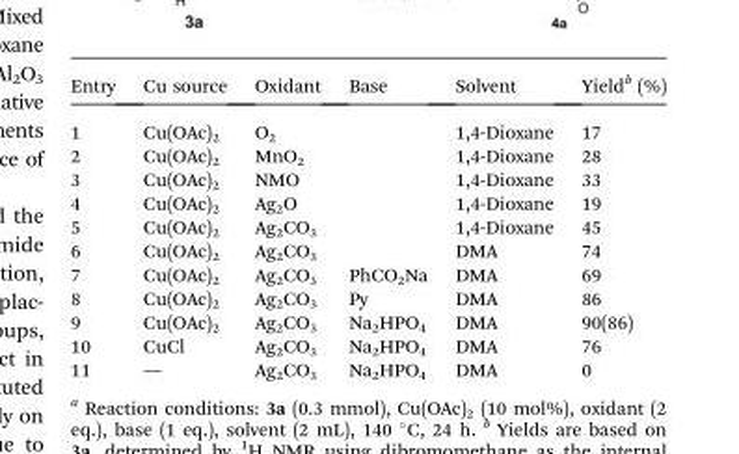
<table><thead><tr><td>Entry</td><td>Cu source</td><td>Oxidant</td><td>Base</td><td>Solvent</td><td>Yield<sup>b</sup> (%)</td></tr></thead><tbody><tr><td>1</td><td>Cu(OAc)<sub>2</sub></td><td>O<sub>2</sub></td><td></td><td>1,4-Dioxane</td><td>17</td></tr><tr><td>2</td><td>Cu(OAc)<sub>2</sub></td><td>MnO<sub>2</sub></td><td></td><td>1,4-Dioxane</td><td>28</td></tr><tr><td>3</td><td>Cu(OAc)<sub>2</sub></td><td>NMO</td><td></td><td>1,4-Dioxane</td><td>33</td></tr><tr><td>4</td><td>Cu(OAc)<sub>2</sub></td><td>Ag<sub>2</sub>O</td><td></td><td>1,4-Dioxane</td><td>19</td></tr><tr><td>5</td><td>Cu(OAc)<sub>2</sub></td><td>Ag<sub>2</sub>CO<sub>3</sub></td><td></td><td>1,4-Dioxane</td><td>45</td></tr><tr><td>6</td><td>Cu(OAc)<sub>2</sub></td><td>Ag<sub>2</sub>CO<sub>3</sub></td><td></td><td>DMA</td><td>74</td></tr><tr><td>7</td><td>Cu(OAc)<sub>2</sub></td><td>Ag<sub>2</sub>CO<sub>3</sub></td><td>PhCO<sub>2</sub>Na</td><td>DMA</td><td>69</td></tr><tr><td>8</td><td>Cu(OAc)<sub>2</sub></td><td>Ag<sub>2</sub>CO<sub>3</sub></td><td>Py</td><td>DMA</td><td>86</td></tr><tr><td>9</td><td>Cu(OAc)<sub>2</sub></td><td>Ag<sub>2</sub>CO<sub>3</sub></td><td>Na<sub>2</sub>HPO<sub>4</sub></td><td>DMA</td><td>90(86)</td></tr><tr><td>10</td><td>CuCl</td><td>Ag<sub>2</sub>CO<sub>3</sub></td><td>Na<sub>2</sub>HPO<sub>4</sub></td><td>DMA</td><td>76</td></tr><tr><td>11</td><td>—</td><td>Ag<sub>2</sub>CO<sub>3</sub></td><td>Na<sub>2</sub>HPO<sub>4</sub></td><td>DMA</td><td>0</td></tr></tbody></table>